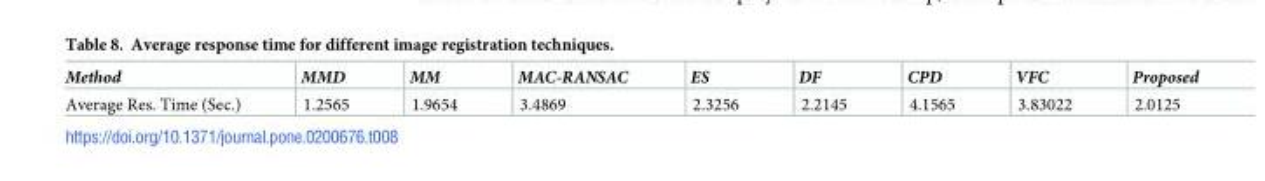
<table><thead><tr><td>Method</td><td>MMD</td><td>MM</td><td>MAC-RANSAC</td><td>ES</td><td>DF</td><td>CPD</td><td>VFC</td><td>Proposed</td></tr></thead><tbody><tr><td>Average Res. Time (Sec.)</td><td>1.2565</td><td>1.9654</td><td>3.4869</td><td>2.3256</td><td>2.2145</td><td>4.1565</td><td>3.83022</td><td>2.0125</td></tr></tbody></table>